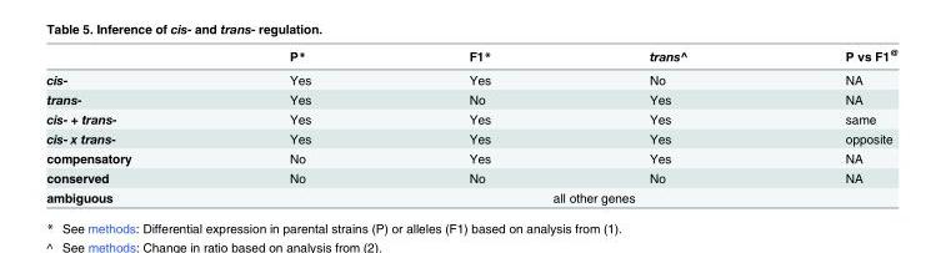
<table><thead><tr><td></td><td>P*</td><td>F1*</td><td>trans<sup>^</sup></td><td>P vs F1<sup>@</sup></td></tr></thead><tbody><tr><td>cis-</td><td>Yes</td><td>Yes</td><td>No</td><td>NA</td></tr><tr><td>trans-</td><td>Yes</td><td>No</td><td>Yes</td><td>NA</td></tr><tr><td>cis- + trans-</td><td>Yes</td><td>Yes</td><td>Yes</td><td>same</td></tr><tr><td>cis- x trans-</td><td>Yes</td><td>Yes</td><td>Yes</td><td>opposite</td></tr><tr><td>compensatory</td><td>No</td><td>Yes</td><td>Yes</td><td>NA</td></tr><tr><td>conserved</td><td>No</td><td>No</td><td>No</td><td>NA</td></tr><tr><td>ambiguous</td><td colspan="4">all other genes</td></tr></tbody></table>